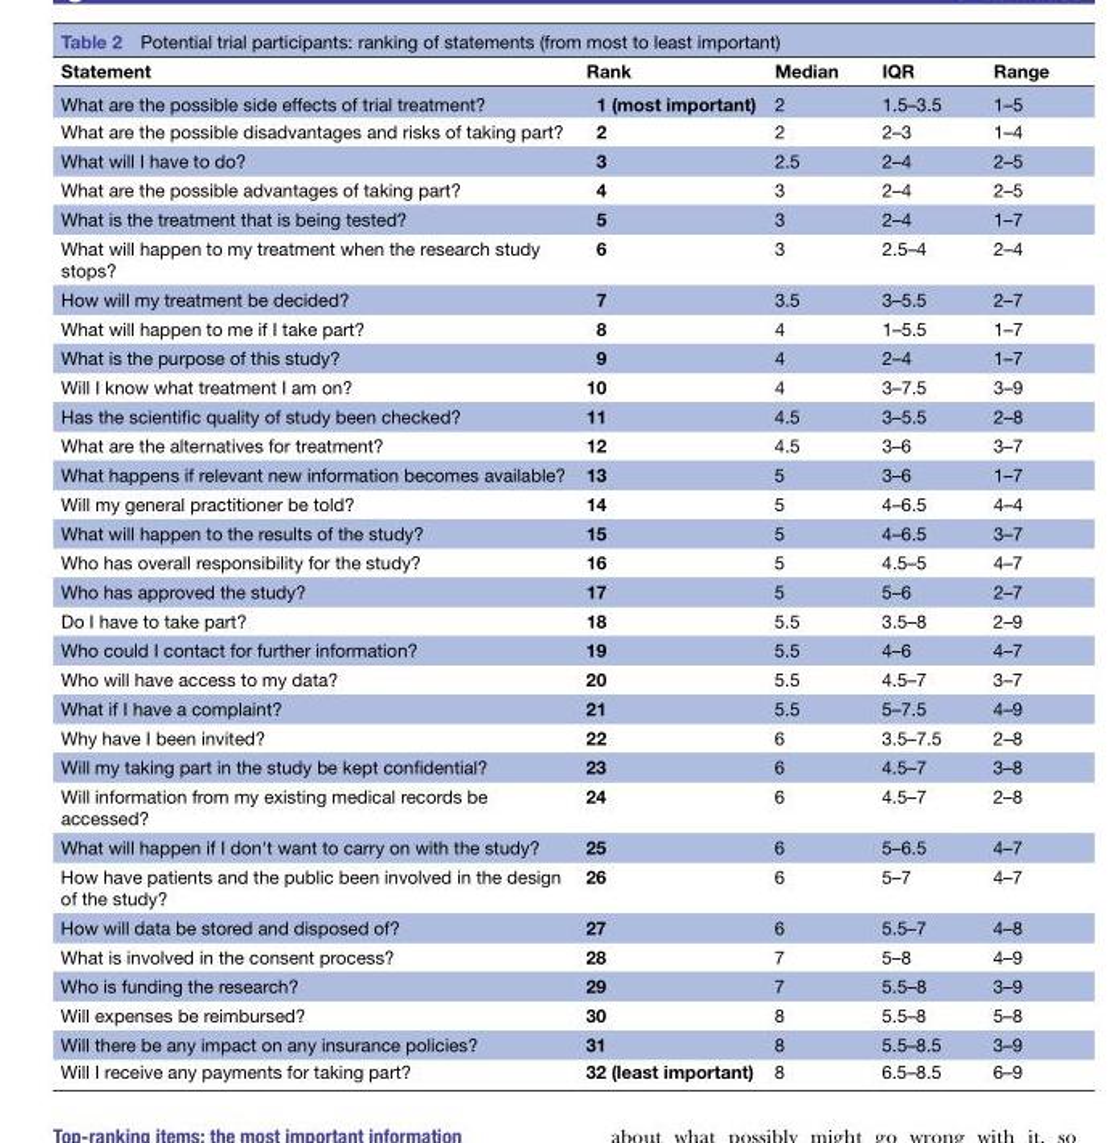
<table><thead><tr><td>Statement</td><td>Rank</td><td>Median</td><td>IQR</td><td>Range</td></tr></thead><tbody><tr><td>What are the possible side effects of trial treatment?</td><td>1 (most important)</td><td>2</td><td>1.5–3.5</td><td>1–5</td></tr><tr><td>What are the possible disadvantages and risks of taking part?</td><td>2</td><td>2</td><td>2–3</td><td>1–4</td></tr><tr><td>What will I have to do?</td><td>3</td><td>2.5</td><td>2–4</td><td>2–5</td></tr><tr><td>What are the possible advantages of taking part?</td><td>4</td><td>3</td><td>2–4</td><td>2–5</td></tr><tr><td>What is the treatment that is being tested?</td><td>5</td><td>3</td><td>2–4</td><td>1–7</td></tr><tr><td>What will happen to my treatment when the research study stops?</td><td>6</td><td>3</td><td>2.5–4</td><td>2–4</td></tr><tr><td>How will my treatment be decided?</td><td>7</td><td>3.5</td><td>3–5.5</td><td>2–7</td></tr><tr><td>What will happen to me if I take part?</td><td>8</td><td>4</td><td>1–5.5</td><td>1–7</td></tr><tr><td>What is the purpose of this study?</td><td>9</td><td>4</td><td>2–4</td><td>1–7</td></tr><tr><td>Will I know what treatment I am on?</td><td>10</td><td>4</td><td>3–7.5</td><td>3–9</td></tr><tr><td>Has the scientific quality of study been checked?</td><td>11</td><td>4.5</td><td>3–5.5</td><td>2–8</td></tr><tr><td>What are the alternatives for treatment?</td><td>12</td><td>4.5</td><td>3–6</td><td>3–7</td></tr><tr><td>What happens if relevant new information becomes available?</td><td>13</td><td>5</td><td>3–6</td><td>1–7</td></tr><tr><td>Will my general practitioner be told?</td><td>14</td><td>5</td><td>4–6.5</td><td>4–4</td></tr><tr><td>What will happen to the results of the study?</td><td>15</td><td>5</td><td>4–6.5</td><td>3–7</td></tr><tr><td>Who has overall responsibility for the study?</td><td>16</td><td>5</td><td>4.5–5</td><td>4–7</td></tr><tr><td>Who has approved the study?</td><td>17</td><td>5</td><td>5–6</td><td>2–7</td></tr><tr><td>Do I have to take part?</td><td>18</td><td>5.5</td><td>3.5–8</td><td>2–9</td></tr><tr><td>Who could I contact for further information?</td><td>19</td><td>5.5</td><td>4–6</td><td>4–7</td></tr><tr><td>Who will have access to my data?</td><td>20</td><td>5.5</td><td>4.5–7</td><td>3–7</td></tr><tr><td>What if I have a complaint?</td><td>21</td><td>5.5</td><td>5–7.5</td><td>4–9</td></tr><tr><td>Why have I been invited?</td><td>22</td><td>6</td><td>3.5–7.5</td><td>2–8</td></tr><tr><td>Will my taking part in the study be kept confidential?</td><td>23</td><td>6</td><td>4.5–7</td><td>3–8</td></tr><tr><td>Will information from my existing medical records be accessed?</td><td>24</td><td>6</td><td>4.5–7</td><td>2–8</td></tr><tr><td>What will happen if I don&#x27;t want to carry on with the study?</td><td>25</td><td>6</td><td>5–6.5</td><td>4–7</td></tr><tr><td>How have patients and the public been involved in the design of the study?</td><td>26</td><td>6</td><td>5–7</td><td>4–7</td></tr><tr><td>How will data be stored and disposed of?</td><td>27</td><td>6</td><td>5.5–7</td><td>4–8</td></tr><tr><td>What is involved in the consent process?</td><td>28</td><td>7</td><td>5–8</td><td>4–9</td></tr><tr><td>Who is funding the research?</td><td>29</td><td>7</td><td>5.5–8</td><td>3–9</td></tr><tr><td>Will expenses be reimbursed?</td><td>30</td><td>8</td><td>5.5–8</td><td>5–8</td></tr><tr><td>Will there be any impact on any insurance policies?</td><td>31</td><td>8</td><td>5.5–8.5</td><td>3–9</td></tr><tr><td>Will I receive any payments for taking part?</td><td>32 (least important)</td><td>8</td><td>6.5–8.5</td><td>6–9</td></tr></tbody></table>